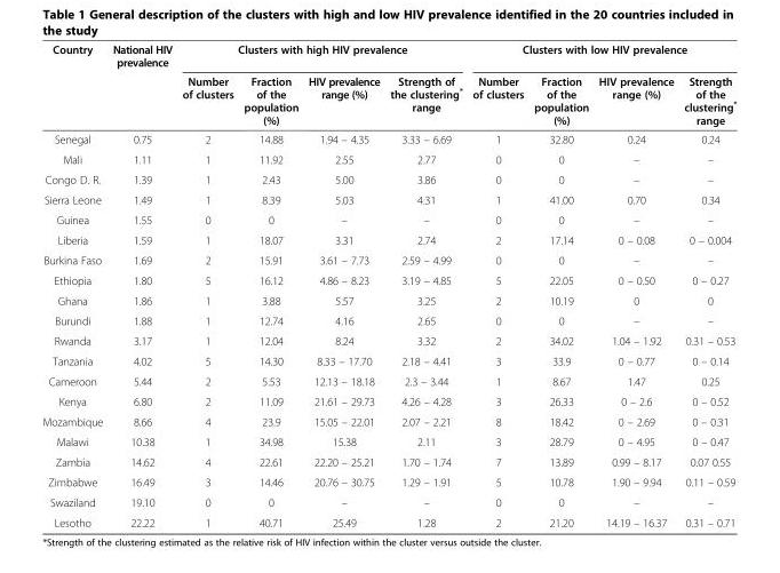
<table><thead><tr><td rowspan="2">Country</td><td rowspan="2">National HIV prevalence</td><td colspan="4">Clusters with high HIV prevalence</td><td colspan="4">Clusters with low HIV prevalence</td></tr><tr><td>Number of clusters</td><td>Fraction of the population (%)</td><td>HIV prevalence range (%)</td><td>Strength of the clustering* range</td><td>Number of clusters</td><td>Fraction of the population (%)</td><td>HIV prevalence range (%)</td><td>Strength of the clustering* range</td></tr></thead><tbody><tr><td>Senegal</td><td>0.75</td><td>2</td><td>14.88</td><td>1.94 – 4.35</td><td>3.33 – 6.69</td><td>1</td><td>32.80</td><td>0.24</td><td>0.24</td></tr><tr><td>Mali</td><td>1.11</td><td>1</td><td>11.92</td><td>2.55</td><td>2.77</td><td>0</td><td>0</td><td>–</td><td>–</td></tr><tr><td>Congo D. R.</td><td>1.39</td><td>1</td><td>2.43</td><td>5.00</td><td>3.86</td><td>0</td><td>0</td><td>–</td><td>–</td></tr><tr><td>Sierra Leone</td><td>1.49</td><td>1</td><td>8.39</td><td>5.03</td><td>4.31</td><td>1</td><td>41.00</td><td>0.70</td><td>0.34</td></tr><tr><td>Guinea</td><td>1.55</td><td>0</td><td>0</td><td>–</td><td>–</td><td>0</td><td>0</td><td>–</td><td>–</td></tr><tr><td>Liberia</td><td>1.59</td><td>1</td><td>18.07</td><td>3.31</td><td>2.74</td><td>2</td><td>17.14</td><td>0 – 0.08</td><td>0 – 0.004</td></tr><tr><td>Burkina Faso</td><td>1.69</td><td>2</td><td>15.91</td><td>3.61 – 7.73</td><td>2.59 – 4.99</td><td>0</td><td>0</td><td>–</td><td>–</td></tr><tr><td>Ethiopia</td><td>1.80</td><td>5</td><td>16.12</td><td>4.86 – 8.23</td><td>3.19 – 4.85</td><td>5</td><td>22.05</td><td>0 – 0.50</td><td>0 – 0.27</td></tr><tr><td>Ghana</td><td>1.86</td><td>1</td><td>3.88</td><td>5.57</td><td>3.25</td><td>2</td><td>10.19</td><td>0</td><td>0</td></tr><tr><td>Burundi</td><td>1.88</td><td>1</td><td>12.74</td><td>4.16</td><td>2.65</td><td>0</td><td>0</td><td>–</td><td>–</td></tr><tr><td>Rwanda</td><td>3.17</td><td>1</td><td>12.04</td><td>8.24</td><td>3.32</td><td>2</td><td>34.02</td><td>1.04 – 1.92</td><td>0.31 – 0.53</td></tr><tr><td>Tanzania</td><td>4.02</td><td>5</td><td>14.30</td><td>8.33 – 17.70</td><td>2.18 – 4.41</td><td>3</td><td>33.9</td><td>0 – 0.77</td><td>0 – 0.14</td></tr><tr><td>Cameroon</td><td>5.44</td><td>2</td><td>5.53</td><td>12.13 – 18.18</td><td>2.3 – 3.44</td><td>1</td><td>8.67</td><td>1.47</td><td>0.25</td></tr><tr><td>Kenya</td><td>6.80</td><td>2</td><td>11.09</td><td>21.61 – 29.73</td><td>4.26 – 4.28</td><td>3</td><td>26.33</td><td>0 – 2.6</td><td>0 – 0.52</td></tr><tr><td>Mozambique</td><td>8.66</td><td>4</td><td>23.9</td><td>15.05 – 22.01</td><td>2.07 – 2.21</td><td>8</td><td>18.42</td><td>0 – 2.69</td><td>0 – 0.31</td></tr><tr><td>Malawi</td><td>10.38</td><td>1</td><td>34.98</td><td>15.38</td><td>2.11</td><td>3</td><td>28.79</td><td>0 – 4.95</td><td>0 – 0.47</td></tr><tr><td>Zambia</td><td>14.62</td><td>4</td><td>22.61</td><td>22.20 – 25.21</td><td>1.70 – 1.74</td><td>7</td><td>13.89</td><td>0.99 – 8.17</td><td>0.07 0.55</td></tr><tr><td>Zimbabwe</td><td>16.49</td><td>3</td><td>14.46</td><td>20.76 – 30.75</td><td>1.29 – 1.91</td><td>5</td><td>10.78</td><td>1.90 – 9.94</td><td>0.11 – 0.59</td></tr><tr><td>Swaziland</td><td>19.10</td><td>0</td><td>0</td><td>–</td><td>–</td><td>0</td><td>0</td><td>–</td><td>–</td></tr><tr><td>Lesotho</td><td>22.22</td><td>1</td><td>40.71</td><td>25.49</td><td>1.28</td><td>2</td><td>21.20</td><td>14.19 – 16.37</td><td>0.31 – 0.71</td></tr></tbody></table>